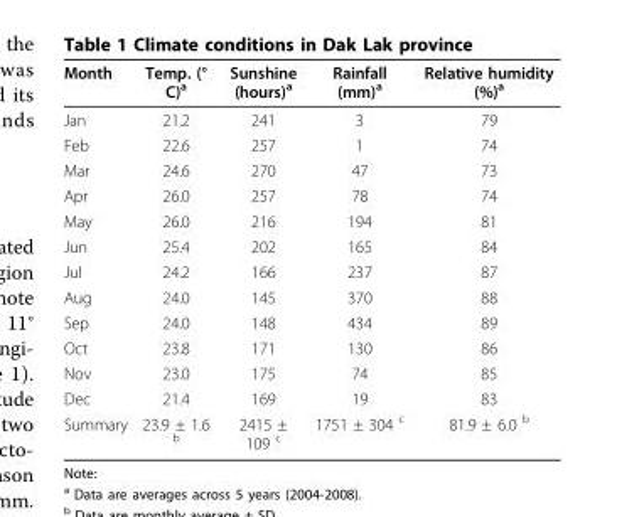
<table><thead><tr><td>Month</td><td>Temp. (° C)<sup>a</sup></td><td>Sunshine (hours)<sup>a</sup></td><td>Rainfall (mm)<sup>a</sup></td><td>Relative humidity (%)<sup>a</sup></td></tr></thead><tbody><tr><td>Jan</td><td>21.2</td><td>241</td><td>3</td><td>79</td></tr><tr><td>Feb</td><td>22.6</td><td>257</td><td>1</td><td>74</td></tr><tr><td>Mar</td><td>24.6</td><td>270</td><td>47</td><td>73</td></tr><tr><td>Apr</td><td>26.0</td><td>257</td><td>78</td><td>74</td></tr><tr><td>May</td><td>26.0</td><td>216</td><td>194</td><td>81</td></tr><tr><td>Jun</td><td>25.4</td><td>202</td><td>165</td><td>84</td></tr><tr><td>Jul</td><td>24.2</td><td>166</td><td>237</td><td>87</td></tr><tr><td>Aug</td><td>24.0</td><td>145</td><td>370</td><td>88</td></tr><tr><td>Sep</td><td>24.0</td><td>148</td><td>434</td><td>89</td></tr><tr><td>Oct</td><td>23.8</td><td>171</td><td>130</td><td>86</td></tr><tr><td>Nov</td><td>23.0</td><td>175</td><td>74</td><td>85</td></tr><tr><td>Dec</td><td>21.4</td><td>169</td><td>19</td><td>83</td></tr><tr><td>Summary</td><td>23.9 ± 1.6 <sup>b</sup></td><td>2415 ± 109 <sup>c</sup></td><td>1751 ± 304 <sup>c</sup></td><td>81.9 ± 6.0 <sup>b</sup></td></tr></tbody></table>